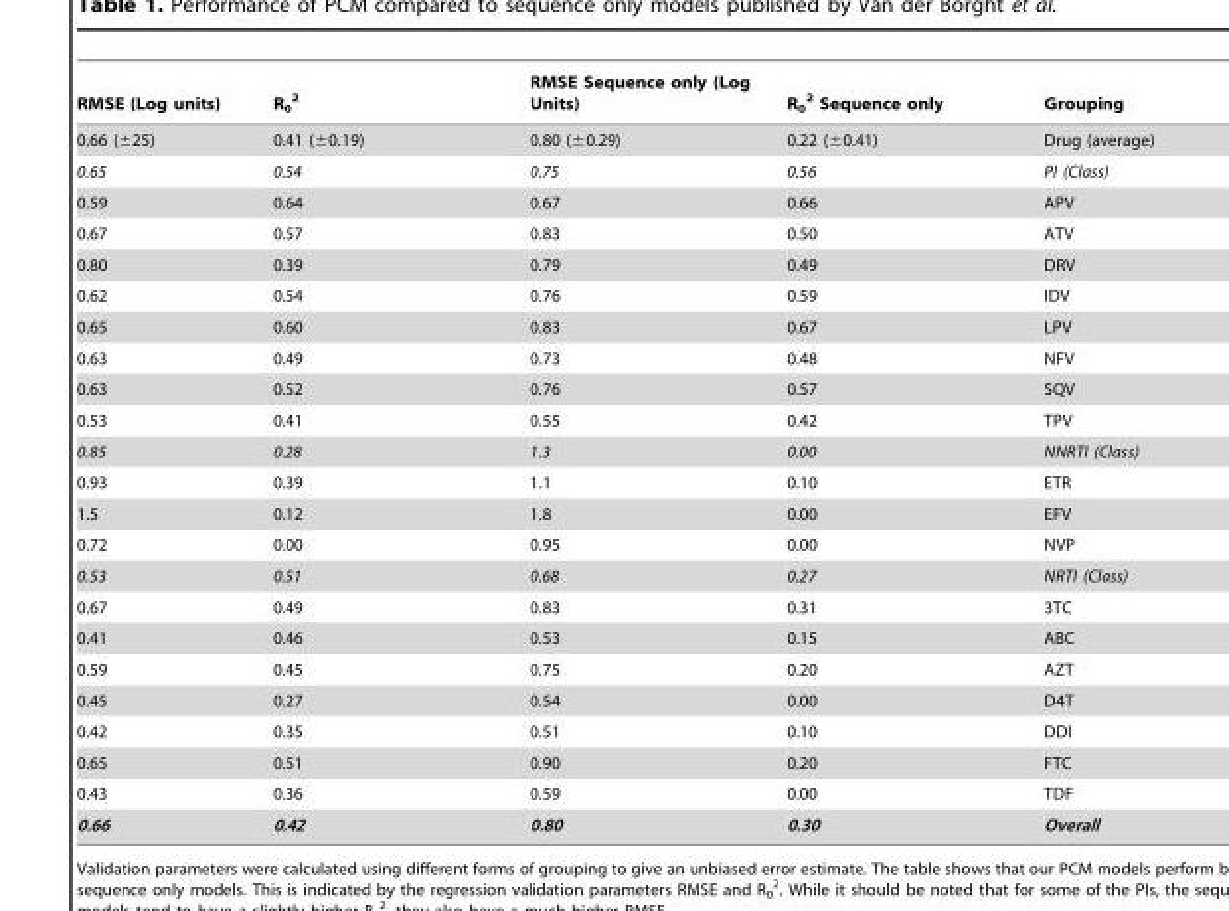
<table><thead><tr><td>RMSE (Log units)</td><td>R<sub>0</sub> <sup>2</sup></td><td>RMSE Sequence only (Log Units)</td><td>R<sub>0</sub> <sup>2</sup> Sequence only</td><td>Grouping</td></tr></thead><tbody><tr><td>0.66 (±25)</td><td>0.41 (±0.19)</td><td>0.80 (±0.29)</td><td>0.22 (±0.41)</td><td>Drug (average)</td></tr><tr><td>0.65</td><td>0.54</td><td>0.75</td><td>0.56</td><td>PI (Class)</td></tr><tr><td>0.59</td><td>0.64</td><td>0.67</td><td>0.66</td><td>APV</td></tr><tr><td>0.67</td><td>0.57</td><td>0.83</td><td>0.50</td><td>ATV</td></tr><tr><td>0.80</td><td>0.39</td><td>0.79</td><td>0.49</td><td>DRV</td></tr><tr><td>0.62</td><td>0.54</td><td>0.76</td><td>0.59</td><td>IDV</td></tr><tr><td>0.65</td><td>0.60</td><td>0.83</td><td>0.67</td><td>LPV</td></tr><tr><td>0.63</td><td>0.49</td><td>0.73</td><td>0.48</td><td>NFV</td></tr><tr><td>0.63</td><td>0.52</td><td>0.76</td><td>0.57</td><td>SQV</td></tr><tr><td>0.53</td><td>0.41</td><td>0.55</td><td>0.42</td><td>TPV</td></tr><tr><td>0.85</td><td>0.28</td><td>1.3</td><td>0.00</td><td>NNRTI (Class)</td></tr><tr><td>0.93</td><td>0.39</td><td>1.1</td><td>0.10</td><td>ETR</td></tr><tr><td>1.5</td><td>0.12</td><td>1.8</td><td>0.00</td><td>EFV</td></tr><tr><td>0.72</td><td>0.00</td><td>0.95</td><td>0.00</td><td>NVP</td></tr><tr><td>0.53</td><td>0.51</td><td>0.68</td><td>0.27</td><td>NRTI (Class)</td></tr><tr><td>0.67</td><td>0.49</td><td>0.83</td><td>0.31</td><td>3TC</td></tr><tr><td>0.41</td><td>0.46</td><td>0.53</td><td>0.15</td><td>ABC</td></tr><tr><td>0.59</td><td>0.45</td><td>0.75</td><td>0.20</td><td>AZT</td></tr><tr><td>0.45</td><td>0.27</td><td>0.54</td><td>0.00</td><td>D4T</td></tr><tr><td>0.42</td><td>0.35</td><td>0.51</td><td>0.10</td><td>DDI</td></tr><tr><td>0.65</td><td>0.51</td><td>0.90</td><td>0.20</td><td>FTC</td></tr><tr><td>0.43</td><td>0.36</td><td>0.59</td><td>0.00</td><td>TDF</td></tr><tr><td>0.66</td><td>0.42</td><td>0.80</td><td>0.30</td><td>Overall</td></tr></tbody></table>